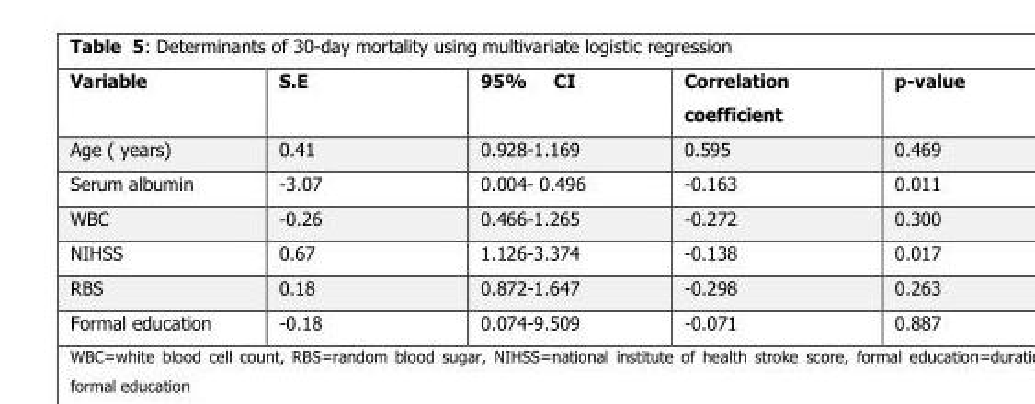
<table><thead><tr><td>Variable</td><td>S.E</td><td>95% CI</td><td>Correlation coefficient</td><td>p-value</td></tr></thead><tbody><tr><td>Age ( years)</td><td>0.41</td><td>0.928-1.169</td><td>0.595</td><td>0.469</td></tr><tr><td>Serum albumin</td><td>-3.07</td><td>0.004- 0.496</td><td>-0.163</td><td>0.011</td></tr><tr><td>WBC</td><td>-0.26</td><td>0.466-1.265</td><td>-0.272</td><td>0.300</td></tr><tr><td>NIHSS</td><td>0.67</td><td>1.126-3.374</td><td>-0.138</td><td>0.017</td></tr><tr><td>RBS</td><td>0.18</td><td>0.872-1.647</td><td>-0.298</td><td>0.263</td></tr><tr><td>Formal education</td><td>-0.18</td><td>0.074-9.509</td><td>-0.071</td><td>0.887</td></tr></tbody></table>